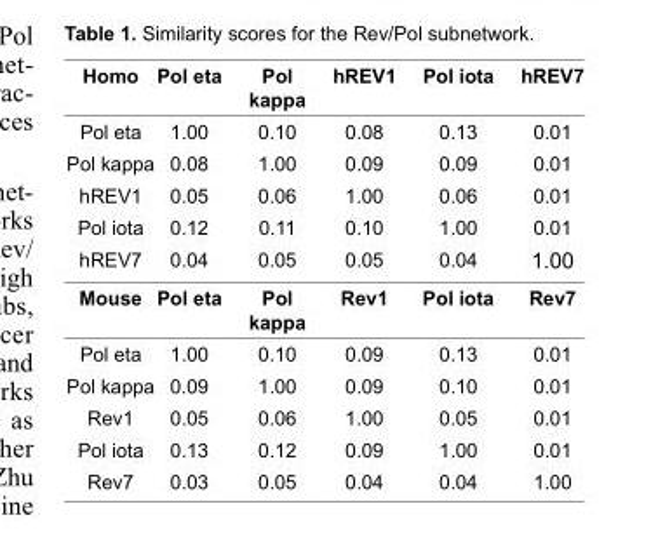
<table><thead><tr><td>Homo</td><td>Pol eta</td><td>Pol kappa</td><td>hREV1</td><td>Pol iota</td><td>hREV7</td></tr></thead><tbody><tr><td>Pol eta</td><td>1.00</td><td>0.10</td><td>0.08</td><td>0.13</td><td>0.01</td></tr><tr><td>Pol kappa</td><td>0.08</td><td>1.00</td><td>0.09</td><td>0.09</td><td>0.01</td></tr><tr><td>hREV1</td><td>0.05</td><td>0.06</td><td>1.00</td><td>0.06</td><td>0.01</td></tr><tr><td>Pol iota</td><td>0.12</td><td>0.11</td><td>0.10</td><td>1.00</td><td>0.01</td></tr><tr><td>hREV7</td><td>0.04</td><td>0.05</td><td>0.05</td><td>0.04</td><td>1.00</td></tr><tr><td>Mouse</td><td>Pol eta</td><td>Pol kappa</td><td>Rev1</td><td>Pol iota</td><td>Rev7</td></tr><tr><td>Pol eta</td><td>1.00</td><td>0.10</td><td>0.09</td><td>0.13</td><td>0.01</td></tr><tr><td>Pol kappa</td><td>0.09</td><td>1.00</td><td>0.09</td><td>0.10</td><td>0.01</td></tr><tr><td>Rev1</td><td>0.05</td><td>0.06</td><td>1.00</td><td>0.05</td><td>0.01</td></tr><tr><td>Pol iota</td><td>0.13</td><td>0.12</td><td>0.09</td><td>1.00</td><td>0.01</td></tr><tr><td>Rev7</td><td>0.03</td><td>0.05</td><td>0.04</td><td>0.04</td><td>1.00</td></tr></tbody></table>